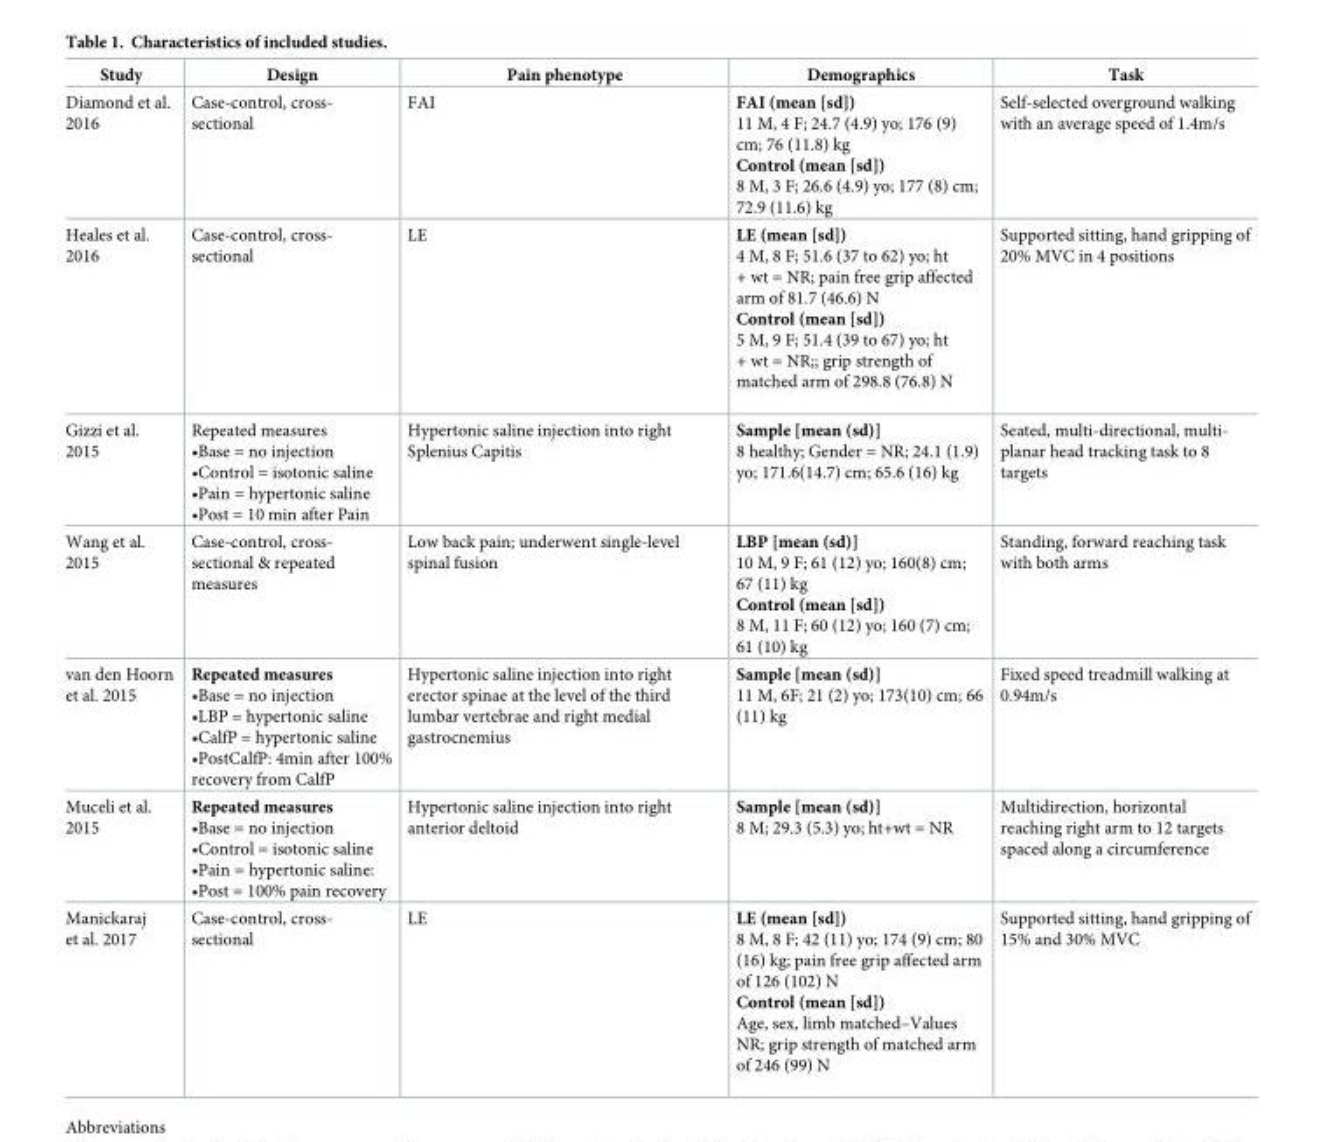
<table><thead><tr><td>Study</td><td>Design</td><td>Pain phenotype</td><td>Demographics</td><td>Task</td></tr></thead><tbody><tr><td>Diamond et al. 2016</td><td>Case-control, cross- sectional</td><td>FAI</td><td>FAI (mean [sd]) 11 M, 4 F; 24.7 (4.9) yo; 176 (9) cm; 76 (11.8) kg Control (mean [sd]) 8 M, 3 F; 26.6 (4.9) yo; 177 (8) cm; 72.9 (11.6) kg</td><td>Self-selected overground walking with an average speed of 1.4m/s</td></tr><tr><td>Heales et al. 2016</td><td>Case-control, cross- sectional</td><td>LE</td><td>LE (mean [sd]) 4 M, 8 F; 51.6 (37 to 62) yo; ht + wt = NR; pain free grip affected arm of 81.7 (46.6) N Control (mean [sd]) 5 M, 9 F; 51.4 (39 to 67) yo; ht + wt = NR;; grip strength of matched arm of 298.8 (76.8) N</td><td>Supported sitting, hand gripping of 20% MVC in 4 positions</td></tr><tr><td>Gizzi et al. 2015</td><td>Repeated measures •Base = no injection •Control = isotonic saline •Pain = hypertonic saline •Post = 10 min after Pain</td><td>Hypertonic saline injection into right Splenius Capitis</td><td>Sample [mean (sd)] 8 healthy; Gender = NR; 24.1 (1.9) yo; 171.6(14.7) cm; 65.6 (16) kg</td><td>Seated, multi-directional, multi- planar head tracking task to 8 targets</td></tr><tr><td>Wang et al. 2015</td><td>Case-control, cross- sectional &amp; repeated measures</td><td>Low back pain; underwent single-level spinal fusion</td><td>LBP [mean (sd)] 10 M, 9 F; 61 (12) yo; 160(8) cm; 67 (11) kg Control (mean [sd]) 8 M, 11 F; 60 (12) yo; 160 (7) cm; 61 (10) kg</td><td>Standing, forward reaching task with both arms</td></tr><tr><td>van den Hoorn et al. 2015</td><td>Repeated measures •Base = no injection •LBP = hypertonic saline •CalfP = hypertonic saline •PostCalfP: 4min after 100% recovery from CalfP</td><td>Hypertonic saline injection into right erector spinae at the level of the third lumbar vertebrae and right medial gastrocnemius</td><td>Sample [mean (sd)] 11 M, 6F; 21 (2) yo; 173(10) cm; 66 (11) kg</td><td>Fixed speed treadmill walking at 0.94m/s</td></tr><tr><td>Muceli et al. 2015</td><td>Repeated measures •Base = no injection •Control = isotonic saline •Pain = hypertonic saline: •Post = 100% pain recovery</td><td>Hypertonic saline injection into right anterior deltoid</td><td>Sample [mean (sd)] 8 M; 29.3 (5.3) yo; ht+wt = NR</td><td>Multidirection, horizontal reaching right arm to 12 targets spaced along a circumference</td></tr><tr><td>Manickaraj et al. 2017</td><td>Case-control, cross- sectional</td><td>LE</td><td>LE (mean [sd]) 8 M, 8 F; 42 (11) yo; 174 (9) cm; 80 (16) kg; pain free grip affected arm of 126 (102) N Control (mean [sd]) Age, sex, limb matched–Values NR; grip strength of matched arm of 246 (99) N</td><td>Supported sitting, hand gripping of 15% and 30% MVC</td></tr></tbody></table>